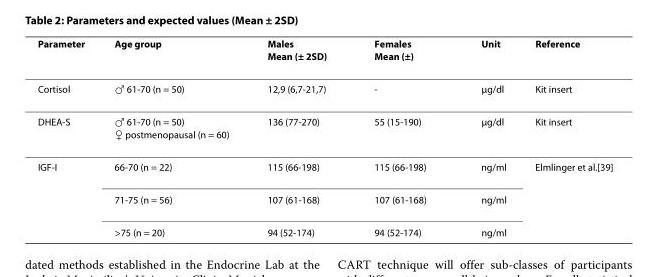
<table><thead><tr><td>Parameter</td><td>Age group</td><td>Males Mean (± 2SD)</td><td>Females Mean (±)</td><td>Unit</td><td>Reference</td></tr></thead><tbody><tr><td>Cortisol</td><td>♂ 61-70 (n = 50)</td><td>12,9 (6,7-21,7)</td><td>-</td><td>μg/dl</td><td>Kit insert</td></tr><tr><td>DHEA-S</td><td>♂ 61-70 (n = 50) ♀ postmenopausal (n = 60)</td><td>136 (77-270)</td><td>55 (15-190)</td><td>μg/dl</td><td>Kit insert</td></tr><tr><td rowspan="3">IGF-I</td><td>66-70 (n = 22)</td><td>115 (66-198)</td><td>115 (66-198)</td><td>ng/ml</td><td>Elmlinger et al.[39]</td></tr><tr><td>71-75 (n = 56)</td><td>107 (61-168)</td><td>107 (61-168)</td><td>ng/ml</td><td></td></tr><tr><td>&gt;75 (n = 20)</td><td>94 (52-174)</td><td>94 (52-174)</td><td>ng/ml</td><td></td></tr></tbody></table>